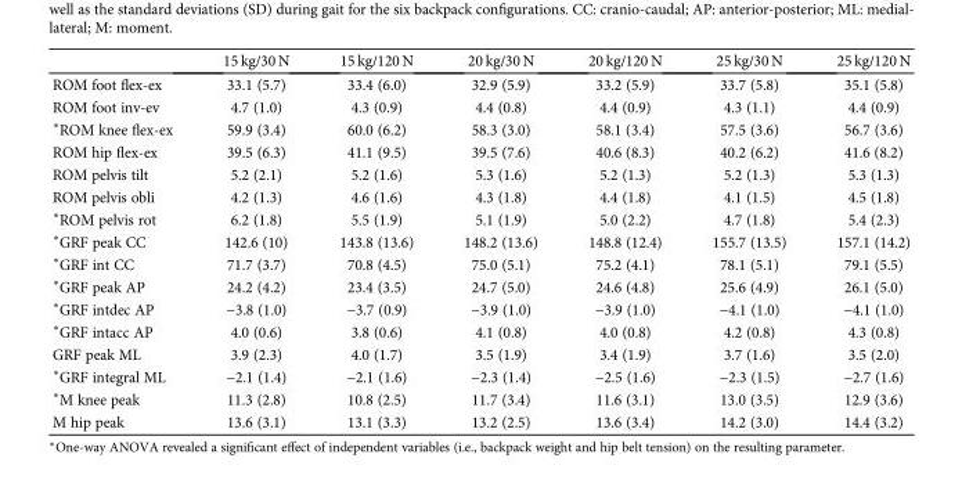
<table><thead><tr><td></td><td>15 kg/30 N</td><td>15 kg/120 N</td><td>20 kg/30 N</td><td>20 kg/120 N</td><td>25 kg/30 N</td><td>25 kg/120 N</td></tr></thead><tbody><tr><td>ROM foot flex-ex</td><td>33.1 (5.7)</td><td>33.4 (6.0)</td><td>32.9 (5.9)</td><td>33.2 (5.9)</td><td>33.7 (5.8)</td><td>35.1 (5.8)</td></tr><tr><td>ROM foot inv-ev</td><td>4.7 (1.0)</td><td>4.3 (0.9)</td><td>4.4 (0.8)</td><td>4.4 (0.9)</td><td>4.3 (1.1)</td><td>4.4 (0.9)</td></tr><tr><td>∗ROM knee flex-ex</td><td>59.9 (3.4)</td><td>60.0 (6.2)</td><td>58.3 (3.0)</td><td>58.1 (3.4)</td><td>57.5 (3.6)</td><td>56.7 (3.6)</td></tr><tr><td>ROM hip flex-ex</td><td>39.5 (6.3)</td><td>41.1 (9.5)</td><td>39.5 (7.6)</td><td>40.6 (8.3)</td><td>40.2 (6.2)</td><td>41.6 (8.2)</td></tr><tr><td>ROM pelvis tilt</td><td>5.2 (2.1)</td><td>5.2 (1.6)</td><td>5.3 (1.6)</td><td>5.2 (1.3)</td><td>5.2 (1.3)</td><td>5.3 (1.3)</td></tr><tr><td>ROM pelvis obli</td><td>4.2 (1.3)</td><td>4.6 (1.6)</td><td>4.3 (1.8)</td><td>4.4 (1.8)</td><td>4.1 (1.5)</td><td>4.5 (1.8)</td></tr><tr><td>∗ROM pelvis rot</td><td>6.2 (1.8)</td><td>5.5 (1.9)</td><td>5.1 (1.9)</td><td>5.0 (2.2)</td><td>4.7 (1.8)</td><td>5.4 (2.3)</td></tr><tr><td>∗GRF peak CC</td><td>142.6 (10)</td><td>143.8 (13.6)</td><td>148.2 (13.6)</td><td>148.8 (12.4)</td><td>155.7 (13.5)</td><td>157.1 (14.2)</td></tr><tr><td>∗GRF int CC</td><td>71.7 (3.7)</td><td>70.8 (4.5)</td><td>75.0 (5.1)</td><td>75.2 (4.1)</td><td>78.1 (5.1)</td><td>79.1 (5.5)</td></tr><tr><td>∗GRF peak AP</td><td>24.2 (4.2)</td><td>23.4 (3.5)</td><td>24.7 (5.0)</td><td>24.6 (4.8)</td><td>25.6 (4.9)</td><td>26.1 (5.0)</td></tr><tr><td>∗GRF intdec AP</td><td>−3.8 (1.0)</td><td>−3.7 (0.9)</td><td>−3.9 (1.0)</td><td>−3.9 (1.0)</td><td>−4.1 (1.0)</td><td>−4.1 (1.0)</td></tr><tr><td>∗GRF intacc AP</td><td>4.0 (0.6)</td><td>3.8 (0.6)</td><td>4.1 (0.8)</td><td>4.0 (0.8)</td><td>4.2 (0.8)</td><td>4.3 (0.8)</td></tr><tr><td>GRF peak ML</td><td>3.9 (2.3)</td><td>4.0 (1.7)</td><td>3.5 (1.9)</td><td>3.4 (1.9)</td><td>3.7 (1.6)</td><td>3.5 (2.0)</td></tr><tr><td>∗GRF integral ML</td><td>−2.1 (1.4)</td><td>−2.1 (1.6)</td><td>−2.3 (1.4)</td><td>−2.5 (1.6)</td><td>−2.3 (1.5)</td><td>−2.7 (1.6)</td></tr><tr><td>∗M knee peak</td><td>11.3 (2.8)</td><td>10.8 (2.5)</td><td>11.7 (3.4)</td><td>11.6 (3.1)</td><td>13.0 (3.5)</td><td>12.9 (3.6)</td></tr><tr><td>M hip peak</td><td>13.6 (3.1)</td><td>13.1 (3.3)</td><td>13.2 (2.5)</td><td>13.6 (3.4)</td><td>14.2 (3.0)</td><td>14.4 (3.2)</td></tr></tbody></table>